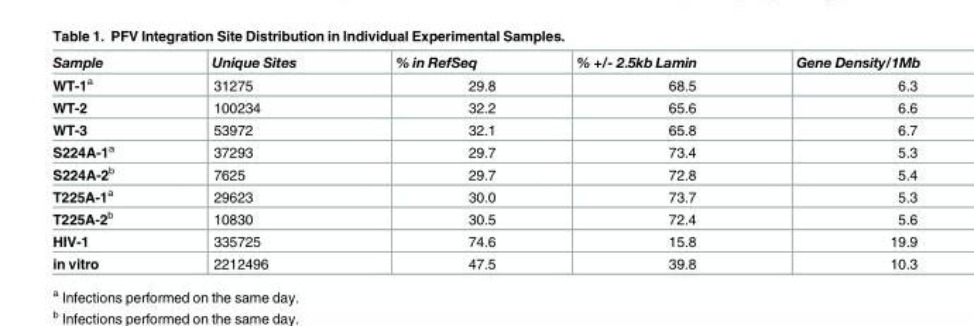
<table><thead><tr><td>Sample</td><td>Unique Sites</td><td>% in RefSeq</td><td>% +/- 2.5kb Lamin</td><td>Gene Density/1Mb</td></tr></thead><tbody><tr><td>WT-1<sup>a</sup></td><td>31275</td><td>29.8</td><td>68.5</td><td>6.3</td></tr><tr><td>WT-2</td><td>100234</td><td>32.2</td><td>65.6</td><td>6.6</td></tr><tr><td>WT-3</td><td>53972</td><td>32.1</td><td>65.8</td><td>6.7</td></tr><tr><td>S224A-1<sup>a</sup></td><td>37293</td><td>29.7</td><td>73.4</td><td>5.3</td></tr><tr><td>S224A-2<sup>b</sup></td><td>7625</td><td>29.7</td><td>72.8</td><td>5.4</td></tr><tr><td>T225A-1<sup>a</sup></td><td>29623</td><td>30.0</td><td>73.7</td><td>5.3</td></tr><tr><td>T225A-2<sup>b</sup></td><td>10830</td><td>30.5</td><td>72.4</td><td>5.6</td></tr><tr><td>HIV-1</td><td>335725</td><td>74.6</td><td>15.8</td><td>19.9</td></tr><tr><td>in vitro</td><td>2212496</td><td>47.5</td><td>39.8</td><td>10.3</td></tr></tbody></table>